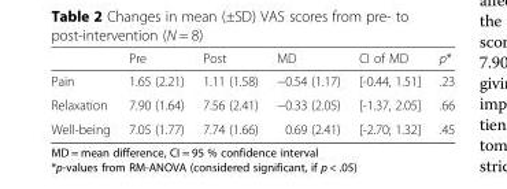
<table><thead><tr><td></td><td>Pre</td><td>Post</td><td>MD</td><td>CI of MD</td><td>p*</td></tr></thead><tbody><tr><td>Pain</td><td>1.65 (2.21)</td><td>1.11 (1.58)</td><td>−0.54 (1.17)</td><td>[-0.44, 1.51]</td><td>.23</td></tr><tr><td>Relaxation</td><td>7.90 (1.64)</td><td>7.56 (2.41)</td><td>−0.33 (2.05)</td><td>[-1.37, 2.05]</td><td>.66</td></tr><tr><td>Well-being</td><td>7.05 (1.77)</td><td>7.74 (1.66)</td><td>0.69 (2.41)</td><td>[-2.70; 1.32]</td><td>.45</td></tr></tbody></table>